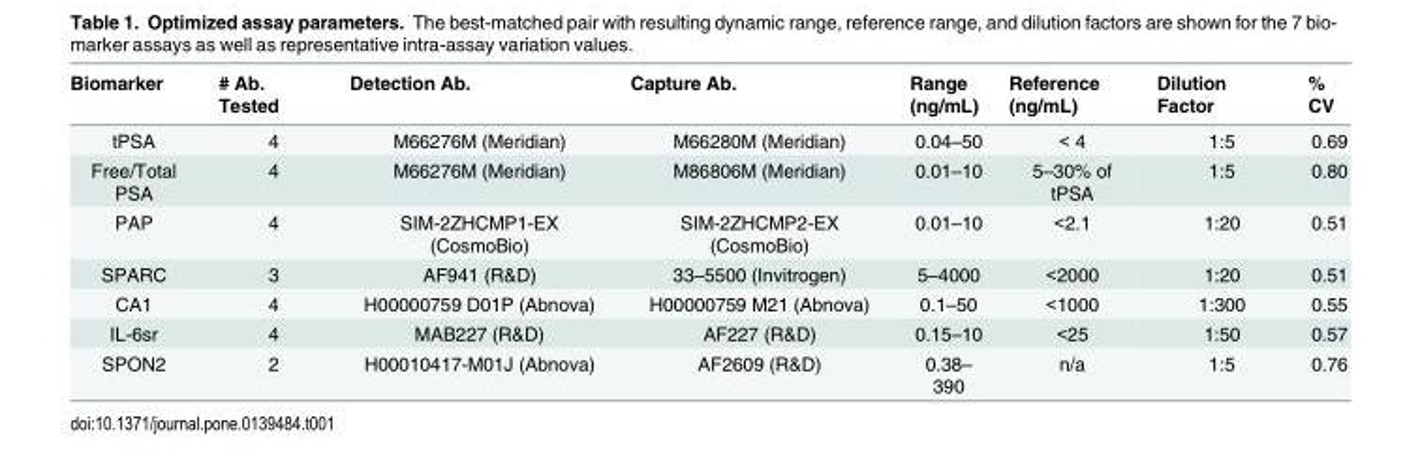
<table><thead><tr><td>Biomarker</td><td># Ab. Tested</td><td>Detection Ab.</td><td>Capture Ab.</td><td>Range (ng/mL)</td><td>Reference (ng/mL)</td><td>Dilution Factor</td><td>% CV</td></tr></thead><tbody><tr><td>tPSA</td><td>4</td><td>M66276M (Meridian)</td><td>M66280M (Meridian)</td><td>0.04–50</td><td>&lt; 4</td><td>1:5</td><td>0.69</td></tr><tr><td>Free/Total PSA</td><td>4</td><td>M66276M (Meridian)</td><td>M86806M (Meridian)</td><td>0.01–10</td><td>5–30% of tPSA</td><td>1:5</td><td>0.80</td></tr><tr><td>PAP</td><td>4</td><td>SIM-2ZHCMP1-EX (CosmoBio)</td><td>SIM-2ZHCMP2-EX (CosmoBio)</td><td>0.01–10</td><td>&lt;2.1</td><td>1:20</td><td>0.51</td></tr><tr><td>SPARC</td><td>3</td><td>AF941 (R&amp;D)</td><td>33–5500 (Invitrogen)</td><td>5–4000</td><td>&lt;2000</td><td>1:20</td><td>0.51</td></tr><tr><td>CA1</td><td>4</td><td>H00000759 D01P (Abnova)</td><td>H00000759 M21 (Abnova)</td><td>0.1–50</td><td>&lt;1000</td><td>1:300</td><td>0.55</td></tr><tr><td>IL-6sr</td><td>4</td><td>MAB227 (R&amp;D)</td><td>AF227 (R&amp;D)</td><td>0.15–10</td><td>&lt;25</td><td>1:50</td><td>0.57</td></tr><tr><td>SPON2</td><td>2</td><td>H00010417-M01J (Abnova)</td><td>AF2609 (R&amp;D)</td><td>0.38– 390</td><td>n/a</td><td>1:5</td><td>0.76</td></tr></tbody></table>